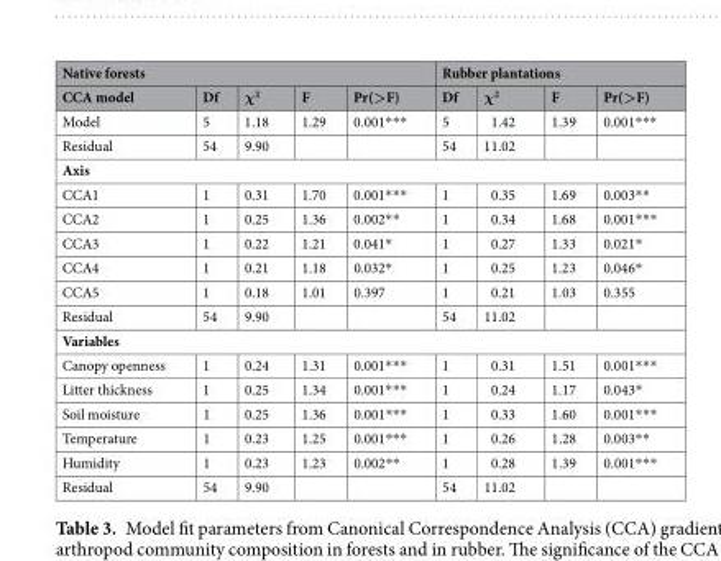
<table><thead><tr><td colspan="5">Native forests</td><td colspan="4">Rubber plantations</td></tr><tr><td>CCA model</td><td>Df</td><td>χ<sup>2</sup></td><td>F</td><td>Pr(&gt;F)</td><td>Df</td><td>χ<sup>2</sup></td><td>F</td><td>Pr(&gt;F)</td></tr></thead><tbody><tr><td>Model</td><td>5</td><td>1.18</td><td>1.29</td><td>0.001***</td><td>5</td><td>1.42</td><td>1.39</td><td>0.001***</td></tr><tr><td>Residual</td><td>54</td><td>9.90</td><td></td><td></td><td>54</td><td>11.02</td><td></td><td></td></tr><tr><td colspan="9">Axis</td></tr><tr><td>CCA1</td><td>1</td><td>0.31</td><td>1.70</td><td>0.001***</td><td>1</td><td>0.35</td><td>1.69</td><td>0.003**</td></tr><tr><td>CCA2</td><td>1</td><td>0.25</td><td>1.36</td><td>0.002**</td><td>1</td><td>0.34</td><td>1.68</td><td>0.001***</td></tr><tr><td>CCA3</td><td>1</td><td>0.22</td><td>1.21</td><td>0.041*</td><td>1</td><td>0.27</td><td>1.33</td><td>0.021*</td></tr><tr><td>CCA4</td><td>1</td><td>0.21</td><td>1.18</td><td>0.032*</td><td>1</td><td>0.25</td><td>1.23</td><td>0.046*</td></tr><tr><td>CCA5</td><td>1</td><td>0.18</td><td>1.01</td><td>0.397</td><td>1</td><td>0.21</td><td>1.03</td><td>0.355</td></tr><tr><td>Residual</td><td>54</td><td>9.90</td><td></td><td></td><td>54</td><td>11.02</td><td></td><td></td></tr><tr><td colspan="9">Variables</td></tr><tr><td>Canopy openness</td><td>1</td><td>0.24</td><td>1.31</td><td>0.001***</td><td>1</td><td>0.31</td><td>1.51</td><td>0.001***</td></tr><tr><td>Litter thickness</td><td>1</td><td>0.25</td><td>1.34</td><td>0.001***</td><td>1</td><td>0.24</td><td>1.17</td><td>0.043*</td></tr><tr><td>Soil moisture</td><td>1</td><td>0.25</td><td>1.36</td><td>0.001***</td><td>1</td><td>0.33</td><td>1.60</td><td>0.001***</td></tr><tr><td>Temperature</td><td>1</td><td>0.23</td><td>1.25</td><td>0.001***</td><td>1</td><td>0.26</td><td>1.28</td><td>0.003**</td></tr><tr><td>Humidity</td><td>1</td><td>0.23</td><td>1.23</td><td>0.002**</td><td>1</td><td>0.28</td><td>1.39</td><td>0.001***</td></tr><tr><td>Residual</td><td>54</td><td>9.90</td><td></td><td></td><td>54</td><td>11.02</td><td></td><td></td></tr></tbody></table>